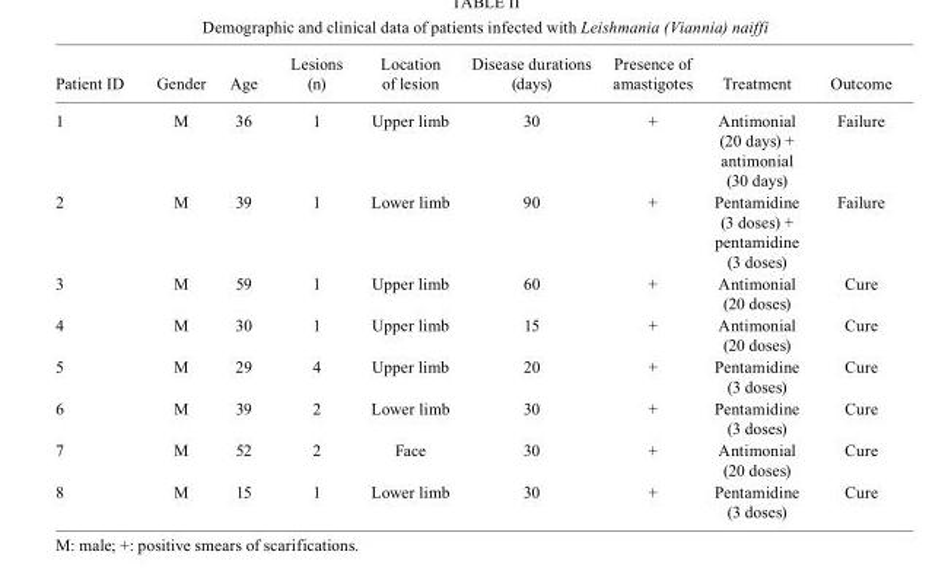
<table><thead><tr><td>Patient ID</td><td>Gender</td><td>Age</td><td>Lesions (n)</td><td>Location of lesion</td><td>Disease durations (days)</td><td>Presence of amastigotes</td><td>Treatment</td><td>Outcome</td></tr></thead><tbody><tr><td>1</td><td>M</td><td>36</td><td>1</td><td>Upper limb</td><td>30</td><td>+</td><td>Antimonial (20 days) + antimonial (30 days)</td><td>Failure</td></tr><tr><td>2</td><td>M</td><td>39</td><td>1</td><td>Lower limb</td><td>90</td><td>+</td><td>Pentamidine (3 doses) + pentamidine (3 doses)</td><td>Failure</td></tr><tr><td>3</td><td>M</td><td>59</td><td>1</td><td>Upper limb</td><td>60</td><td>+</td><td>Antimonial (20 doses)</td><td>Cure</td></tr><tr><td>4</td><td>M</td><td>30</td><td>1</td><td>Upper limb</td><td>15</td><td>+</td><td>Antimonial (20 doses)</td><td>Cure</td></tr><tr><td>5</td><td>M</td><td>29</td><td>4</td><td>Upper limb</td><td>20</td><td>+</td><td>Pentamidine (3 doses)</td><td>Cure</td></tr><tr><td>6</td><td>M</td><td>39</td><td>2</td><td>Lower limb</td><td>30</td><td>+</td><td>Pentamidine (3 doses)</td><td>Cure</td></tr><tr><td>7</td><td>M</td><td>52</td><td>2</td><td>Face</td><td>30</td><td>+</td><td>Antimonial (20 doses)</td><td>Cure</td></tr><tr><td>8</td><td>M</td><td>15</td><td>1</td><td>Lower limb</td><td>30</td><td>+</td><td>Pentamidine (3 doses)</td><td>Cure</td></tr></tbody></table>